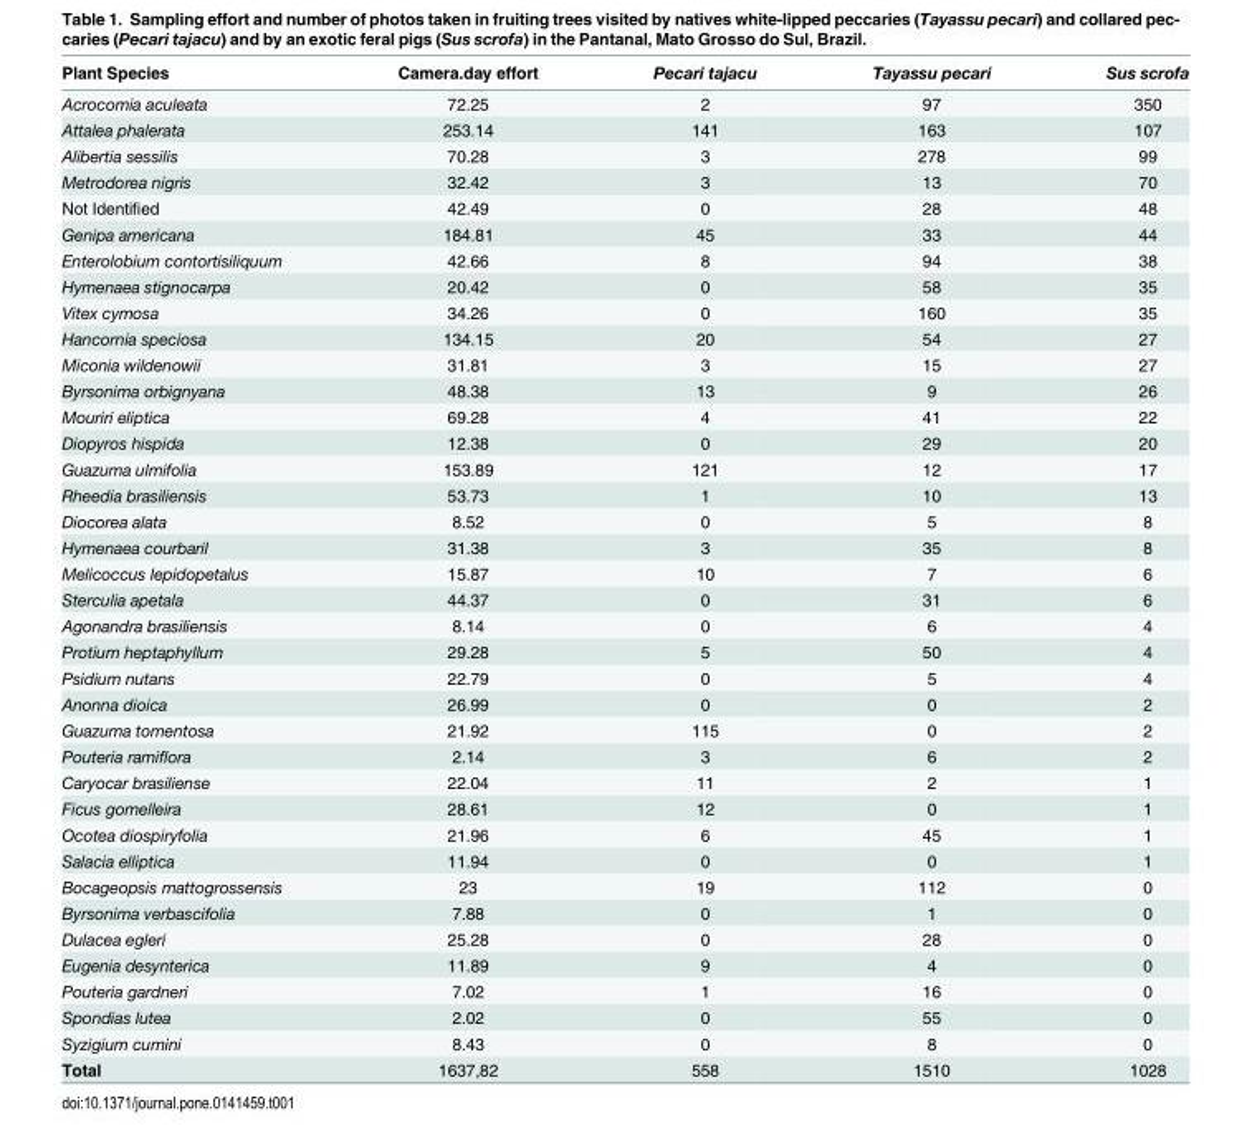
<table><thead><tr><td>Plant Species</td><td>Camera.day effort</td><td>Pecari tajacu</td><td>Tayassu pecari</td><td>Sus scrofa</td></tr></thead><tbody><tr><td>Acrocomia aculeata</td><td>72.25</td><td>2</td><td>97</td><td>350</td></tr><tr><td>Attalea phalerata</td><td>253.14</td><td>141</td><td>163</td><td>107</td></tr><tr><td>Alibertia sessilis</td><td>70.28</td><td>3</td><td>278</td><td>99</td></tr><tr><td>Metrodorea nigris</td><td>32.42</td><td>3</td><td>13</td><td>70</td></tr><tr><td>Not Identified</td><td>42.49</td><td>0</td><td>28</td><td>48</td></tr><tr><td>Genipa americana</td><td>184.81</td><td>45</td><td>33</td><td>44</td></tr><tr><td>Enterolobium contortisiliquum</td><td>42.66</td><td>8</td><td>94</td><td>38</td></tr><tr><td>Hymenaea stignocarpa</td><td>20.42</td><td>0</td><td>58</td><td>35</td></tr><tr><td>Vitex cymosa</td><td>34.26</td><td>0</td><td>160</td><td>35</td></tr><tr><td>Hancornia speciosa</td><td>134.15</td><td>20</td><td>54</td><td>27</td></tr><tr><td>Miconia wildenowii</td><td>31.81</td><td>3</td><td>15</td><td>27</td></tr><tr><td>Byrsonima orbignyana</td><td>48.38</td><td>13</td><td>9</td><td>26</td></tr><tr><td>Mouriri eliptica</td><td>69.28</td><td>4</td><td>41</td><td>22</td></tr><tr><td>Diopyros hispida</td><td>12.38</td><td>0</td><td>29</td><td>20</td></tr><tr><td>Guazuma ulmifolia</td><td>153.89</td><td>121</td><td>12</td><td>17</td></tr><tr><td>Rheedia brasiliensis</td><td>53.73</td><td>1</td><td>10</td><td>13</td></tr><tr><td>Diocorea alata</td><td>8.52</td><td>0</td><td>5</td><td>8</td></tr><tr><td>Hymenaea courbaril</td><td>31.38</td><td>3</td><td>35</td><td>8</td></tr><tr><td>Melicoccus lepidopetalus</td><td>15.87</td><td>10</td><td>7</td><td>6</td></tr><tr><td>Sterculia apetala</td><td>44.37</td><td>0</td><td>31</td><td>6</td></tr><tr><td>Agonandra brasiliensis</td><td>8.14</td><td>0</td><td>6</td><td>4</td></tr><tr><td>Protium heptaphyllum</td><td>29.28</td><td>5</td><td>50</td><td>4</td></tr><tr><td>Psidium nutans</td><td>22.79</td><td>0</td><td>5</td><td>4</td></tr><tr><td>Anonna dioica</td><td>26.99</td><td>0</td><td>0</td><td>2</td></tr><tr><td>Guazuma tomentosa</td><td>21.92</td><td>115</td><td>0</td><td>2</td></tr><tr><td>Pouteria ramiflora</td><td>2.14</td><td>3</td><td>6</td><td>2</td></tr><tr><td>Caryocar brasiliense</td><td>22.04</td><td>11</td><td>2</td><td>1</td></tr><tr><td>Ficus gomelleira</td><td>28.61</td><td>12</td><td>0</td><td>1</td></tr><tr><td>Ocotea diospiryfolia</td><td>21.96</td><td>6</td><td>45</td><td>1</td></tr><tr><td>Salacia elliptica</td><td>11.94</td><td>0</td><td>0</td><td>1</td></tr><tr><td>Bocageopsis mattogrossensis</td><td>23</td><td>19</td><td>112</td><td>0</td></tr><tr><td>Byrsonima verbascifolia</td><td>7.88</td><td>0</td><td>1</td><td>0</td></tr><tr><td>Dulacea egleri</td><td>25.28</td><td>0</td><td>28</td><td>0</td></tr><tr><td>Eugenia desynterica</td><td>11.89</td><td>9</td><td>4</td><td>0</td></tr><tr><td>Pouteria gardneri</td><td>7.02</td><td>1</td><td>16</td><td>0</td></tr><tr><td>Spondias lutea</td><td>2.02</td><td>0</td><td>55</td><td>0</td></tr><tr><td>Syzigium cumini</td><td>8.43</td><td>0</td><td>8</td><td>0</td></tr><tr><td>Total</td><td>1637,82</td><td>558</td><td>1510</td><td>1028</td></tr></tbody></table>